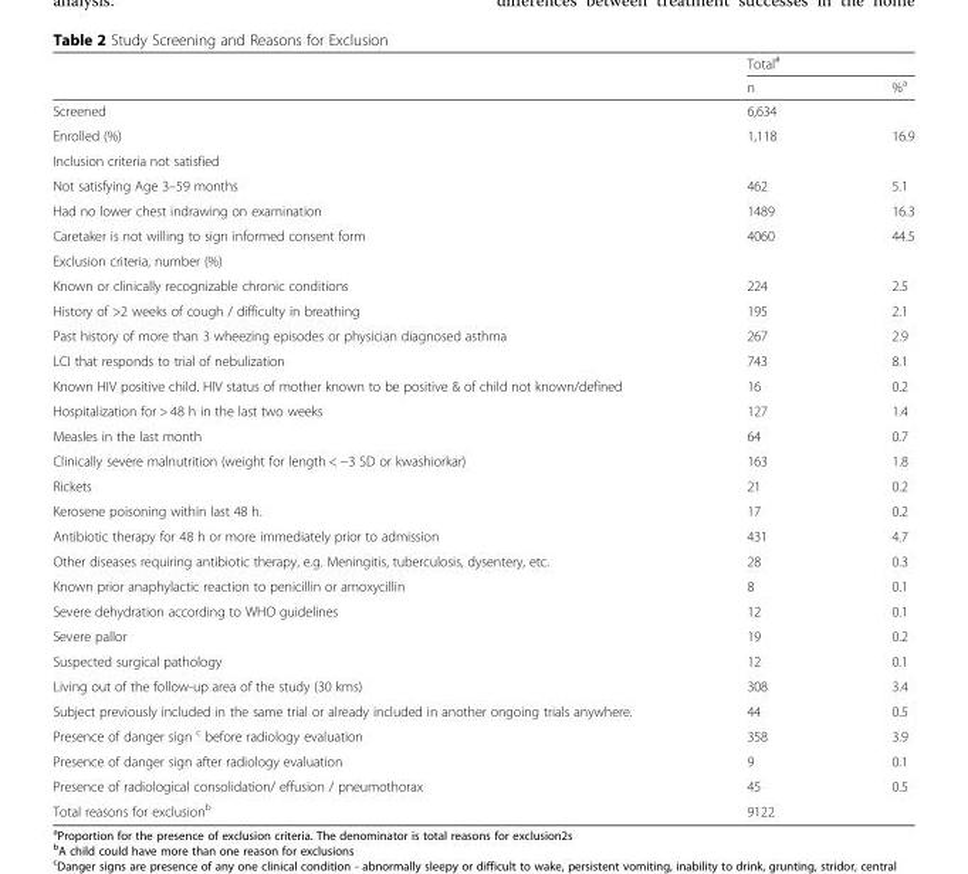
<table><thead><tr><td rowspan="2"></td><td colspan="2">Total<sup>#</sup></td></tr><tr><td>n</td><td>%<sup>a</sup></td></tr></thead><tbody><tr><td>Screened</td><td>6,634</td><td></td></tr><tr><td>Enrolled (%)</td><td>1,118</td><td>16.9</td></tr><tr><td colspan="3">Inclusion criteria not satisfied</td></tr><tr><td>Not satisfying Age 3–59 months</td><td>462</td><td>5.1</td></tr><tr><td>Had no lower chest indrawing on examination</td><td>1489</td><td>16.3</td></tr><tr><td>Caretaker is not willing to sign informed consent form</td><td>4060</td><td>44.5</td></tr><tr><td colspan="3">Exclusion criteria, number (%)</td></tr><tr><td>Known or clinically recognizable chronic conditions</td><td>224</td><td>2.5</td></tr><tr><td>History of &gt;2 weeks of cough / difficulty in breathing</td><td>195</td><td>2.1</td></tr><tr><td>Past history of more than 3 wheezing episodes or physician diagnosed asthma</td><td>267</td><td>2.9</td></tr><tr><td>LCI that responds to trial of nebulization</td><td>743</td><td>8.1</td></tr><tr><td>Known HIV positive child. HIV status of mother known to be positive &amp; of child not known/defined</td><td>16</td><td>0.2</td></tr><tr><td>Hospitalization for &gt; 48 h in the last two weeks</td><td>127</td><td>1.4</td></tr><tr><td>Measles in the last month</td><td>64</td><td>0.7</td></tr><tr><td>Clinically severe malnutrition (weight for length &lt; −3 SD or kwashiorkar)</td><td>163</td><td>1.8</td></tr><tr><td>Rickets</td><td>21</td><td>0.2</td></tr><tr><td>Kerosene poisoning within last 48 h.</td><td>17</td><td>0.2</td></tr><tr><td>Antibiotic therapy for 48 h or more immediately prior to admission</td><td>431</td><td>4.7</td></tr><tr><td>Other diseases requiring antibiotic therapy, e.g. Meningitis, tuberculosis, dysentery, etc.</td><td>28</td><td>0.3</td></tr><tr><td>Known prior anaphylactic reaction to penicillin or amoxycillin</td><td>8</td><td>0.1</td></tr><tr><td>Severe dehydration according to WHO guidelines</td><td>12</td><td>0.1</td></tr><tr><td>Severe pallor</td><td>19</td><td>0.2</td></tr><tr><td>Suspected surgical pathology</td><td>12</td><td>0.1</td></tr><tr><td>Living out of the follow-up area of the study (30 kms)</td><td>308</td><td>3.4</td></tr><tr><td>Subject previously included in the same trial or already included in another ongoing trials anywhere.</td><td>44</td><td>0.5</td></tr><tr><td>Presence of danger sign <sup>c</sup> before radiology evaluation</td><td>358</td><td>3.9</td></tr><tr><td>Presence of danger sign after radiology evaluation</td><td>9</td><td>0.1</td></tr><tr><td>Presence of radiological consolidation/ effusion / pneumothorax</td><td>45</td><td>0.5</td></tr><tr><td>Total reasons for exclusion<sup>b</sup></td><td>9122</td><td></td></tr></tbody></table>